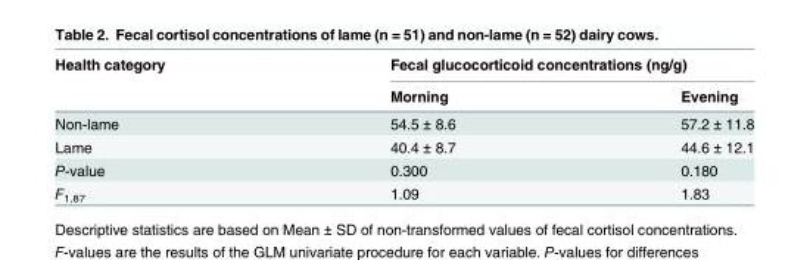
<table><thead><tr><td rowspan="2">Health category</td><td colspan="2">Fecal glucocorticoid concentrations (ng/g)</td></tr><tr><td>Morning</td><td>Evening</td></tr></thead><tbody><tr><td>Non-lame</td><td>54.5 ± 8.6</td><td>57.2 ± 11.8</td></tr><tr><td>Lame</td><td>40.4 ± 8.7</td><td>44.6 ± 12.1</td></tr><tr><td>P-value</td><td>0.300</td><td>0.180</td></tr><tr><td>F<sub>1,87</sub></td><td>1.09</td><td>1.83</td></tr></tbody></table>